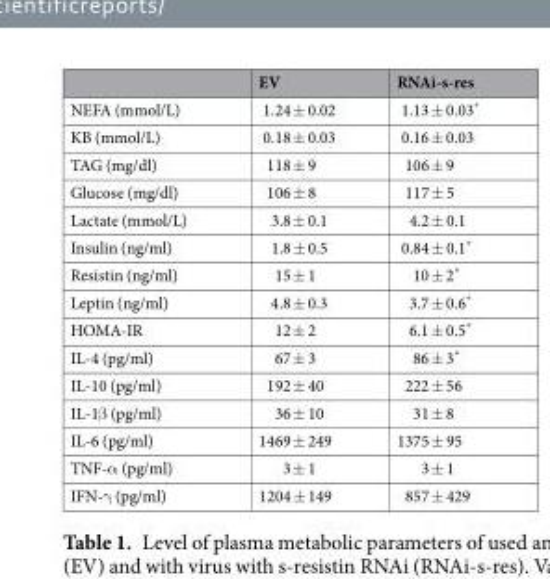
<table><thead><tr><td></td><td>EV</td><td>RNAi-s-res</td></tr></thead><tbody><tr><td>NEFA (mmol/L)</td><td>1.24 ± 0.02</td><td>1.13 ± 0.03*</td></tr><tr><td>KB (mmol/L)</td><td>0.18 ± 0.03</td><td>0.16 ± 0.03</td></tr><tr><td>TAG (mg/dl)</td><td>118 ± 9</td><td>106 ± 9</td></tr><tr><td>Glucose (mg/dl)</td><td>106 ± 8</td><td>117 ± 5</td></tr><tr><td>Lactate (mmol/L)</td><td>3.8 ± 0.1</td><td>4.2 ± 0.1</td></tr><tr><td>Insulin (ng/ml)</td><td>1.8 ± 0.5</td><td>0.84 ± 0.1*</td></tr><tr><td>Resistin (ng/ml)</td><td>15 ± 1</td><td>10 ± 2*</td></tr><tr><td>Leptin (ng/ml)</td><td>4.8 ± 0.3</td><td>3.7 ± 0.6*</td></tr><tr><td>HOMA-IR</td><td>12 ± 2</td><td>6.1 ± 0.5*</td></tr><tr><td>IL-4 (pg/ml)</td><td>67 ± 3</td><td>86 ± 3*</td></tr><tr><td>IL-10 (pg/ml)</td><td>192 ± 40</td><td>222 ± 56</td></tr><tr><td>IL-1β (pg/ml)</td><td>36 ± 10</td><td>31 ± 8</td></tr><tr><td>IL-6 (pg/ml)</td><td>1469 ± 249</td><td>1375 ± 95</td></tr><tr><td>TNF-α (pg/ml)</td><td>3 ± 1</td><td>3 ± 1</td></tr><tr><td>IFN-γ (pg/ml)</td><td>1204 ± 149</td><td>857 ± 429</td></tr></tbody></table>